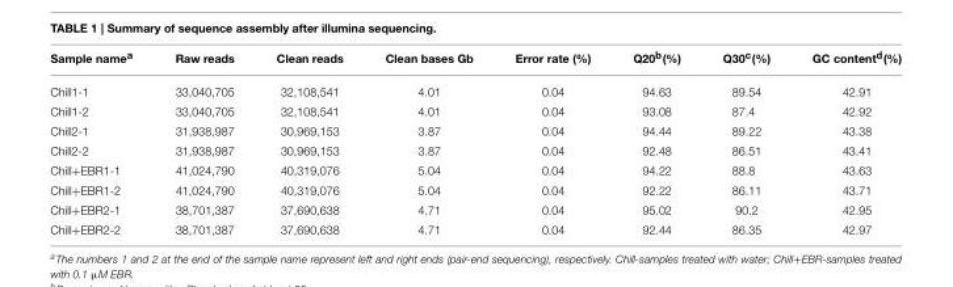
<table><thead><tr><td>Sample name<sup>a</sup></td><td>Raw reads</td><td>Clean reads</td><td>Clean bases Gb</td><td>Error rate (%)</td><td>Q20<sup>b</sup>(%)</td><td>Q30<sup>c</sup>(%)</td><td>GC content<sup>d</sup>(%)</td></tr></thead><tbody><tr><td>Chill1-1</td><td>33,040,705</td><td>32,108,541</td><td>4.01</td><td>0.04</td><td>94.63</td><td>89.54</td><td>42.91</td></tr><tr><td>Chill1-2</td><td>33,040,705</td><td>32,108,541</td><td>4.01</td><td>0.04</td><td>93.08</td><td>87.4</td><td>42.92</td></tr><tr><td>Chill2-1</td><td>31,938,987</td><td>30,969,153</td><td>3.87</td><td>0.04</td><td>94.44</td><td>89.22</td><td>43.38</td></tr><tr><td>Chill2-2</td><td>31,938,987</td><td>30,969,153</td><td>3.87</td><td>0.04</td><td>92.48</td><td>86.51</td><td>43.41</td></tr><tr><td>Chill+EBR1-1</td><td>41,024,790</td><td>40,319,076</td><td>5.04</td><td>0.04</td><td>94.22</td><td>88.8</td><td>43.63</td></tr><tr><td>Chill+EBR1-2</td><td>41,024,790</td><td>40,319,076</td><td>5.04</td><td>0.04</td><td>92.22</td><td>86.11</td><td>43.71</td></tr><tr><td>Chill+EBR2-1</td><td>38,701,387</td><td>37,690,638</td><td>4.71</td><td>0.04</td><td>95.02</td><td>90.2</td><td>42.95</td></tr><tr><td>Chill+EBR2-2</td><td>38,701,387</td><td>37,690,638</td><td>4.71</td><td>0.04</td><td>92.44</td><td>86.35</td><td>42.97</td></tr></tbody></table>